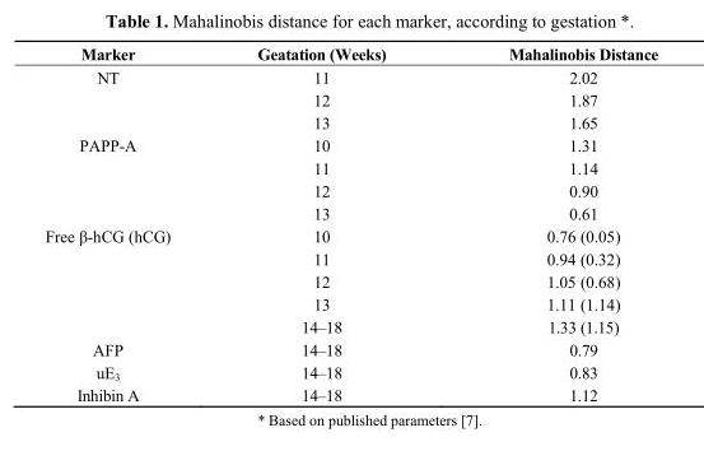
<table><thead><tr><td>Marker</td><td>Geatation (Weeks)</td><td>Mahalinobis Distance</td></tr></thead><tbody><tr><td rowspan="3">NT</td><td>11</td><td>2.02</td></tr><tr><td>12</td><td>1.87</td></tr><tr><td>13</td><td>1.65</td></tr><tr><td rowspan="4">PAPP-A</td><td>10</td><td>1.31</td></tr><tr><td>11</td><td>1.14</td></tr><tr><td>12</td><td>0.90</td></tr><tr><td>13</td><td>0.61</td></tr><tr><td rowspan="5">Free β-hCG (hCG)</td><td>10</td><td>0.76 (0.05)</td></tr><tr><td>11</td><td>0.94 (0.32)</td></tr><tr><td>12</td><td>1.05 (0.68)</td></tr><tr><td>13</td><td>1.11 (1.14)</td></tr><tr><td>14–18</td><td>1.33 (1.15)</td></tr><tr><td>AFP</td><td>14–18</td><td>0.79</td></tr><tr><td>uE<sub>3</sub></td><td>14–18</td><td>0.83</td></tr><tr><td>Inhibin A</td><td>14–18</td><td>1.12</td></tr></tbody></table>